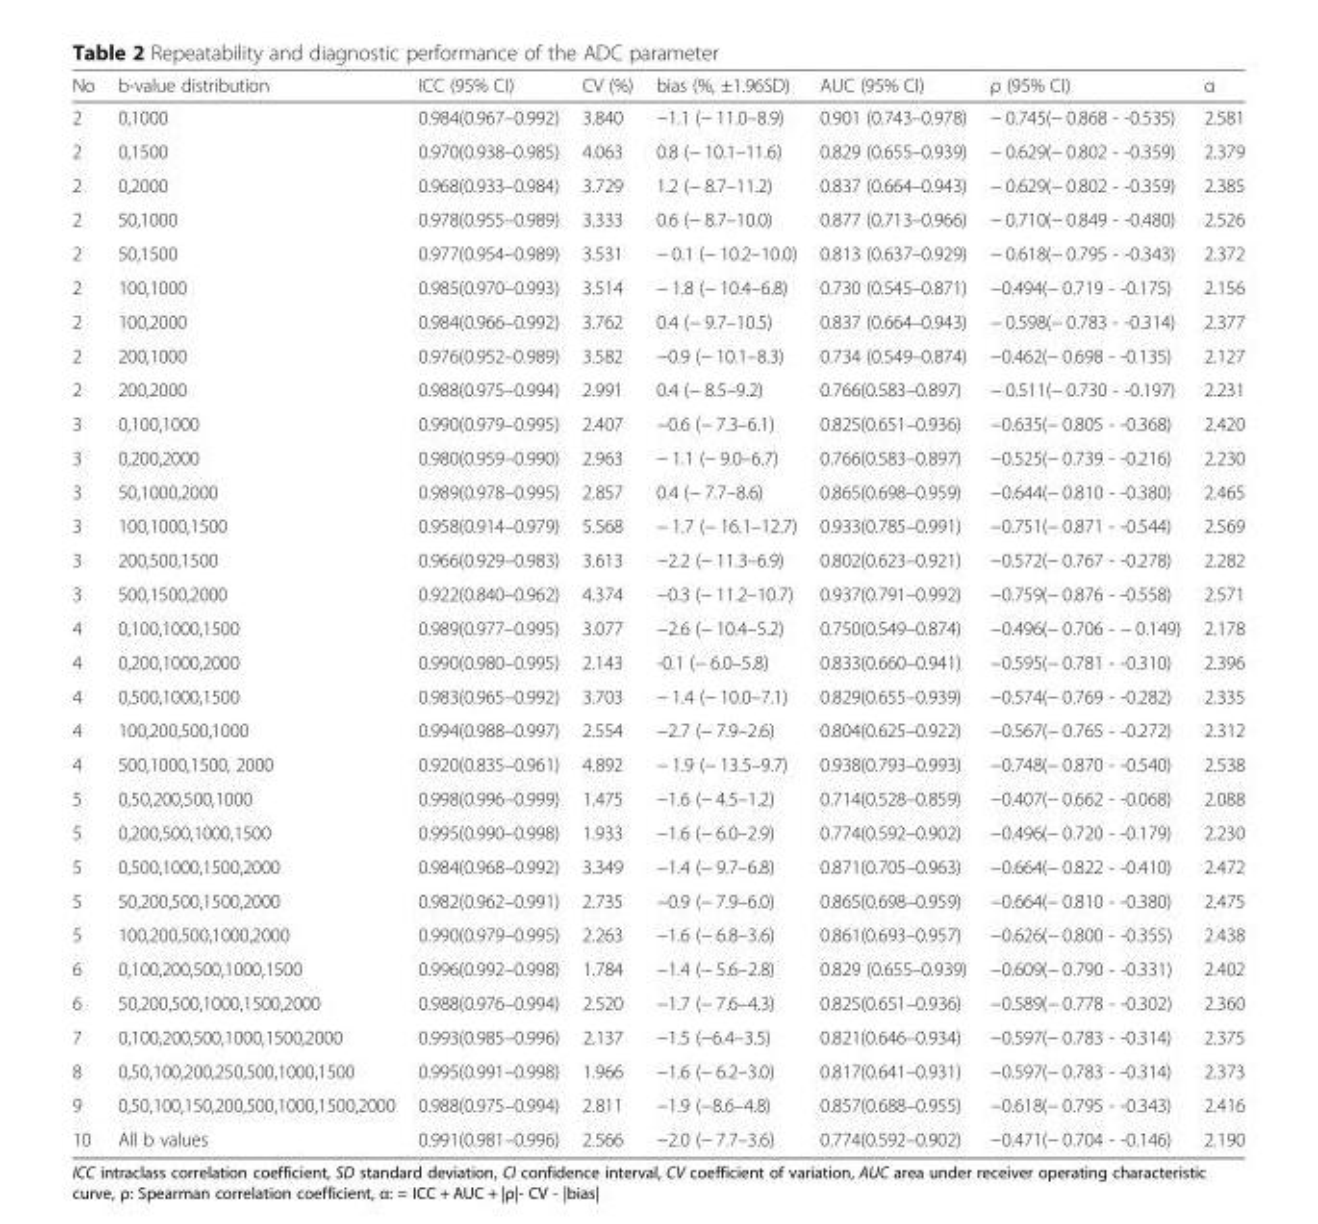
<table><thead><tr><td>No</td><td>b-value distribution</td><td>ICC (95% CI)</td><td>CV (%)</td><td>bias (%, ±1.96SD)</td><td>AUC (95% CI)</td><td>ρ (95% CI)</td><td>α</td></tr></thead><tbody><tr><td>2</td><td>0,1000</td><td>0.984(0.967–0.992)</td><td>3.840</td><td>−1.1 (− 11.0–8.9)</td><td>0.901 (0.743–0.978)</td><td>− 0.745(− 0.868 - -0.535)</td><td>2.581</td></tr><tr><td>2</td><td>0,1500</td><td>0.970(0.938–0.985)</td><td>4.063</td><td>0.8 (− 10.1–11.6)</td><td>0.829 (0.655–0.939)</td><td>− 0.629(− 0.802 - -0.359)</td><td>2.379</td></tr><tr><td>2</td><td>0,2000</td><td>0.968(0.933–0.984)</td><td>3.729</td><td>1.2 (− 8.7–11.2)</td><td>0.837 (0.664–0.943)</td><td>− 0.629(− 0.802 - -0.359)</td><td>2.385</td></tr><tr><td>2</td><td>50,1000</td><td>0.978(0.955–0.989)</td><td>3.333</td><td>0.6 (− 8.7–10.0)</td><td>0.877 (0.713–0.966)</td><td>− 0.710(− 0.849 - -0.480)</td><td>2.526</td></tr><tr><td>2</td><td>50,1500</td><td>0.977(0.954–0.989)</td><td>3.531</td><td>− 0.1 (− 10.2–10.0)</td><td>0.813 (0.637–0.929)</td><td>− 0.618(− 0.795 - -0.343)</td><td>2.372</td></tr><tr><td>2</td><td>100,1000</td><td>0.985(0.970–0.993)</td><td>3.514</td><td>− 1.8 (− 10.4–6.8)</td><td>0.730 (0.545–0.871)</td><td>−0.494(− 0.719 - -0.175)</td><td>2.156</td></tr><tr><td>2</td><td>100,2000</td><td>0.984(0.966–0.992)</td><td>3.762</td><td>0.4 (− 9.7–10.5)</td><td>0.837 (0.664–0.943)</td><td>− 0.598(− 0.783 - -0.314)</td><td>2.377</td></tr><tr><td>2</td><td>200,1000</td><td>0.976(0.952–0.989)</td><td>3.582</td><td>−0.9 (− 10.1–8.3)</td><td>0.734 (0.549–0.874)</td><td>−0.462(− 0.698 - -0.135)</td><td>2.127</td></tr><tr><td>2</td><td>200,2000</td><td>0.988(0.975–0.994)</td><td>2.991</td><td>0.4 (− 8.5–9.2)</td><td>0.766(0.583–0.897)</td><td>− 0.511(− 0.730 - -0.197)</td><td>2.231</td></tr><tr><td>3</td><td>0,100,1000</td><td>0.990(0.979–0.995)</td><td>2.407</td><td>−0.6 (− 7.3–6.1)</td><td>0.825(0.651–0.936)</td><td>−0.635(− 0.805 - -0.368)</td><td>2.420</td></tr><tr><td>3</td><td>0,200,2000</td><td>0.980(0.959–0.990)</td><td>2.963</td><td>− 1.1 (− 9.0–6.7)</td><td>0.766(0.583–0.897)</td><td>−0.525(− 0.739 - -0.216)</td><td>2.230</td></tr><tr><td>3</td><td>50,1000,2000</td><td>0.989(0.978–0.995)</td><td>2.857</td><td>0.4 (− 7.7–8.6)</td><td>0.865(0.698–0.959)</td><td>−0.644(− 0.810 - -0.380)</td><td>2.465</td></tr><tr><td>3</td><td>100,1000,1500</td><td>0.958(0.914–0.979)</td><td>5.568</td><td>− 1.7 (− 16.1–12.7)</td><td>0.933(0.785–0.991)</td><td>−0.751(− 0.871 - -0.544)</td><td>2.569</td></tr><tr><td>3</td><td>200,500,1500</td><td>0.966(0.929–0.983)</td><td>3.613</td><td>−2.2 (− 11.3–6.9)</td><td>0.802(0.623–0.921)</td><td>−0.572(− 0.767 - -0.278)</td><td>2.282</td></tr><tr><td>3</td><td>500,1500,2000</td><td>0.922(0.840–0.962)</td><td>4.374</td><td>−0.3 (− 11.2–10.7)</td><td>0.937(0.791–0.992)</td><td>−0.759(− 0.876 - -0.558)</td><td>2.571</td></tr><tr><td>4</td><td>0,100,1000,1500</td><td>0.989(0.977–0.995)</td><td>3.077</td><td>−2.6 (− 10.4–5.2)</td><td>0.750(0.549–0.874)</td><td>−0.496(− 0.706 - − 0.149)</td><td>2.178</td></tr><tr><td>4</td><td>0,200,1000,2000</td><td>0.990(0.980–0.995)</td><td>2.143</td><td>-0.1 (− 6.0–5.8)</td><td>0.833(0.660–0.941)</td><td>−0.595(− 0.781 - -0.310)</td><td>2.396</td></tr><tr><td>4</td><td>0,500,1000,1500</td><td>0.983(0.965–0.992)</td><td>3.703</td><td>− 1.4 (− 10.0–7.1)</td><td>0.829(0.655–0.939)</td><td>−0.574(− 0.769 - -0.282)</td><td>2.335</td></tr><tr><td>4</td><td>100,200,500,1000</td><td>0.994(0.988–0.997)</td><td>2.554</td><td>−2.7 (− 7.9–2.6)</td><td>0.804(0.625–0.922)</td><td>−0.567(− 0.765 - -0.272)</td><td>2.312</td></tr><tr><td>4</td><td>500,1000,1500, 2000</td><td>0.920(0.835–0.961)</td><td>4.892</td><td>− 1.9 (− 13.5–9.7)</td><td>0.938(0.793–0.993)</td><td>−0.748(− 0.870 - -0.540)</td><td>2.538</td></tr><tr><td>5</td><td>0,50,200,500,1000</td><td>0.998(0.996–0.999)</td><td>1.475</td><td>−1.6 (− 4.5–1.2)</td><td>0.714(0.528–0.859)</td><td>−0.407(− 0.662 - -0.068)</td><td>2.088</td></tr><tr><td>5</td><td>0,200,500,1000,1500</td><td>0.995(0.990–0.998)</td><td>1.933</td><td>−1.6 (− 6.0–2.9)</td><td>0.774(0.592–0.902)</td><td>−0.496(− 0.720 - -0.179)</td><td>2.230</td></tr><tr><td>5</td><td>0,500,1000,1500,2000</td><td>0.984(0.968–0.992)</td><td>3.349</td><td>−1.4 (− 9.7–6.8)</td><td>0.871(0.705–0.963)</td><td>−0.664(− 0.822 - -0.410)</td><td>2.472</td></tr><tr><td>5</td><td>50,200,500,1500,2000</td><td>0.982(0.962–0.991)</td><td>2.735</td><td>−0.9 (− 7.9–6.0)</td><td>0.865(0.698–0.959)</td><td>−0.664(− 0.810 - -0.380)</td><td>2.475</td></tr><tr><td>5</td><td>100,200,500,1000,2000</td><td>0.990(0.979–0.995)</td><td>2.263</td><td>−1.6 (− 6.8–3.6)</td><td>0.861(0.693–0.957)</td><td>−0.626(− 0.800 - -0.355)</td><td>2.438</td></tr><tr><td>6</td><td>0,100,200,500,1000,1500</td><td>0.996(0.992–0.998)</td><td>1.784</td><td>−1.4 (− 5.6–2.8)</td><td>0.829 (0.655–0.939)</td><td>−0.609(− 0.790 - -0.331)</td><td>2.402</td></tr><tr><td>6</td><td>50,200,500,1000,1500,2000</td><td>0.988(0.976–0.994)</td><td>2.520</td><td>−1.7 (− 7.6–4.3)</td><td>0.825(0.651–0.936)</td><td>−0.589(− 0.778 - -0.302)</td><td>2.360</td></tr><tr><td>7</td><td>0,100,200,500,1000,1500,2000</td><td>0.993(0.985–0.996)</td><td>2.137</td><td>−1.5 (−6.4–3.5)</td><td>0.821(0.646–0.934)</td><td>−0.597(− 0.783 - -0.314)</td><td>2.375</td></tr><tr><td>8</td><td>0,50,100,200,250,500,1000,1500</td><td>0.995(0.991–0.998)</td><td>1.966</td><td>−1.6 (− 6.2–3.0)</td><td>0.817(0.641–0.931)</td><td>−0.597(− 0.783 - -0.314)</td><td>2.373</td></tr><tr><td>9</td><td>0,50,100,150,200,500,1000,1500,2000</td><td>0.988(0.975–0.994)</td><td>2.811</td><td>−1.9 (−8.6–4.8)</td><td>0.857(0.688–0.955)</td><td>−0.618(− 0.795 - -0.343)</td><td>2.416</td></tr><tr><td>10</td><td>All b values</td><td>0.991(0.981–0.996)</td><td>2.566</td><td>−2.0 (− 7.7–3.6)</td><td>0.774(0.592–0.902)</td><td>−0.471(− 0.704 - -0.146)</td><td>2.190</td></tr></tbody></table>